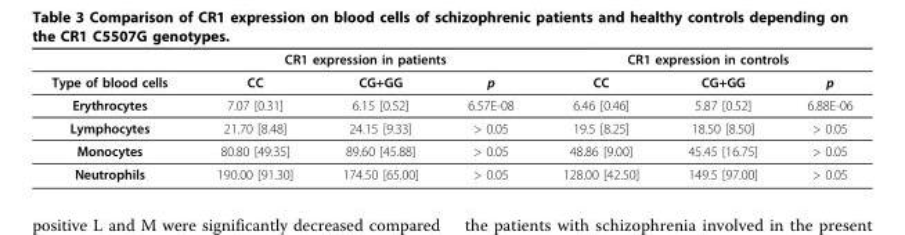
<table><thead><tr><td rowspan="2">Type of blood cells</td><td colspan="3">CR1 expression in patients</td><td colspan="3">CR1 expression in controls</td></tr><tr><td>CC</td><td>CG+GG</td><td>p</td><td>CC</td><td>CG+GG</td><td>p</td></tr></thead><tbody><tr><td>Erythrocytes</td><td>7.07 [0.31]</td><td>6.15 [0.52]</td><td>6.57E-08</td><td>6.46 [0.46]</td><td>5.87 [0.52]</td><td>6.88E-06</td></tr><tr><td>Lymphocytes</td><td>21.70 [8.48]</td><td>24.15 [9.33]</td><td>&gt; 0.05</td><td>19.5 [8.25]</td><td>18.50 [8.50]</td><td>&gt; 0.05</td></tr><tr><td>Monocytes</td><td>80.80 [49.35]</td><td>89.60 [45.88]</td><td>&gt; 0.05</td><td>48.86 [9.00]</td><td>45.45 [16.75]</td><td>&gt; 0.05</td></tr><tr><td>Neutrophils</td><td>190.00 [91.30]</td><td>174.50 [65.00]</td><td>&gt; 0.05</td><td>128.00 [42.50]</td><td>149.5 [97.00]</td><td>&gt; 0.05</td></tr></tbody></table>